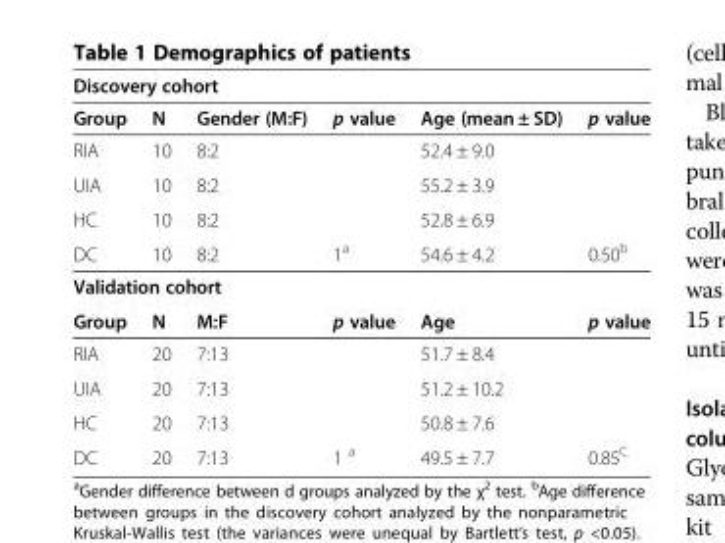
<table><thead><tr><td colspan="6">Discovery cohort</td></tr><tr><td>Group</td><td>N</td><td>Gender (M:F)</td><td>p value</td><td>Age (mean ± SD)</td><td>p value</td></tr></thead><tbody><tr><td>RIA</td><td>10</td><td>8:2</td><td></td><td>52.4 ± 9.0</td><td></td></tr><tr><td>UIA</td><td>10</td><td>8:2</td><td></td><td>55.2 ± 3.9</td><td></td></tr><tr><td>HC</td><td>10</td><td>8:2</td><td></td><td>52.8 ± 6.9</td><td></td></tr><tr><td>DC</td><td>10</td><td>8:2</td><td>1<sup>a</sup></td><td>54.6 ± 4.2</td><td>0.50<sup>b</sup></td></tr><tr><td colspan="6">Validation cohort</td></tr><tr><td>Group</td><td>N</td><td>M:F</td><td>p value</td><td>Age</td><td>p value</td></tr><tr><td>RIA</td><td>20</td><td>7:13</td><td></td><td>51.7 ± 8.4</td><td></td></tr><tr><td>UIA</td><td>20</td><td>7:13</td><td></td><td>51.2 ± 10.2</td><td></td></tr><tr><td>HC</td><td>20</td><td>7:13</td><td></td><td>50.8 ± 7.6</td><td></td></tr><tr><td>DC</td><td>20</td><td>7:13</td><td>1 <sup>a</sup></td><td>49.5 ± 7.7</td><td>0.85<sup>C</sup></td></tr></tbody></table>